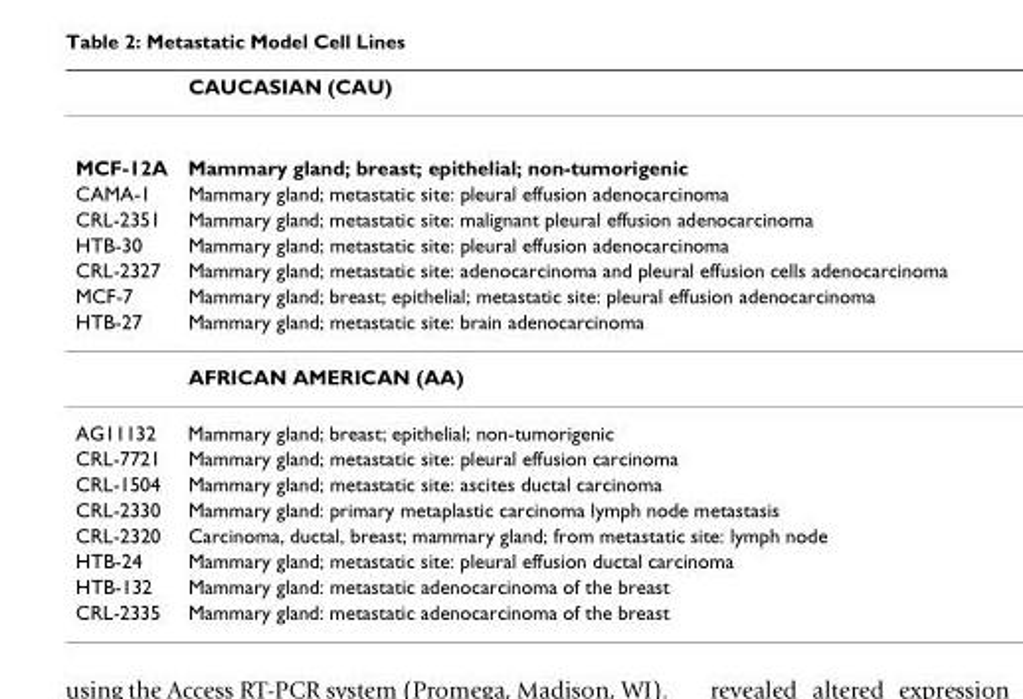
<table><thead><tr><td></td><td>CAUCASIAN (CAU)</td></tr></thead><tbody><tr><td>MCF-12A</td><td>Mammary gland; breast; epithelial; non-tumorigenic</td></tr><tr><td>CAMA-1</td><td>Mammary gland; metastatic site: pleural effusion adenocarcinoma</td></tr><tr><td>CRL-2351</td><td>Mammary gland; metastatic site: malignant pleural effusion adenocarcinoma</td></tr><tr><td>HTB-30</td><td>Mammary gland; metastatic site: pleural effusion adenocarcinoma</td></tr><tr><td>CRL-2327</td><td>Mammary gland; metastatic site: adenocarcinoma and pleural effusion cells adenocarcinoma</td></tr><tr><td>MCF-7</td><td>Mammary gland; breast; epithelial; metastatic site: pleural effusion adenocarcinoma</td></tr><tr><td rowspan="2">HTB-27</td><td>Mammary gland; metastatic site: brain adenocarcinoma</td></tr><tr><td>AFRICAN AMERICAN (AA)</td></tr><tr><td>AG11132</td><td>Mammary gland; breast; epithelial; non-tumorigenic</td></tr><tr><td>CRL-7721</td><td>Mammary gland; metastatic site: pleural effusion carcinoma</td></tr><tr><td>CRL-1504</td><td>Mammary gland; metastatic site: ascites ductal carcinoma</td></tr><tr><td>CRL-2330</td><td>Mammary gland: primary metaplastic carcinoma lymph node metastasis</td></tr><tr><td>CRL-2320</td><td>Carcinoma, ductal, breast; mammary gland; from metastatic site: lymph node</td></tr><tr><td>HTB-24</td><td>Mammary gland; metastatic site: pleural effusion ductal carcinoma</td></tr><tr><td>HTB-132</td><td>Mammary gland: metastatic adenocarcinoma of the breast</td></tr><tr><td>CRL-2335</td><td>Mammary gland: metastatic adenocarcinoma of the breast</td></tr></tbody></table>